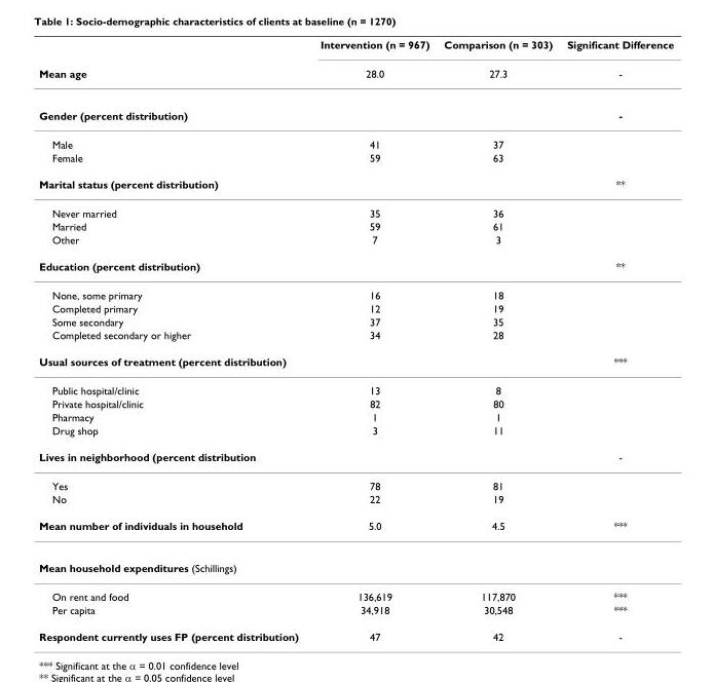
<table><thead><tr><td rowspan="2">Mean age</td><td rowspan="2">Intervention (n = 967) 28.0</td><td rowspan="2">Comparison (n = 303) 27.3</td><td rowspan="2">Significant Difference -</td></tr><tr></tr></thead><tbody><tr><td>Gender (percent distribution)</td><td></td><td></td><td>-</td></tr><tr><td>Male</td><td>41</td><td>37</td><td></td></tr><tr><td>Female</td><td>59</td><td>63</td><td></td></tr><tr><td>Marital status (percent distribution)</td><td></td><td></td><td>**</td></tr><tr><td>Never married</td><td>35</td><td>36</td><td></td></tr><tr><td>Married</td><td>59</td><td>61</td><td></td></tr><tr><td>Other</td><td>7</td><td>3</td><td></td></tr><tr><td>Education (percent distribution)</td><td></td><td></td><td>**</td></tr><tr><td>None, some primary</td><td>16</td><td>18</td><td></td></tr><tr><td>Completed primary</td><td>12</td><td>19</td><td></td></tr><tr><td>Some secondary</td><td>37</td><td>35</td><td></td></tr><tr><td>Completed secondary or higher</td><td>34</td><td>28</td><td></td></tr><tr><td>Usual sources of treatment (percent distribution)</td><td></td><td></td><td>***</td></tr><tr><td>Public hospital/clinic</td><td>13</td><td>8</td><td></td></tr><tr><td>Private hospital/clinic</td><td>82</td><td>80</td><td></td></tr><tr><td>Pharmacy</td><td>1</td><td>1</td><td></td></tr><tr><td>Drug shop</td><td>3</td><td>11</td><td></td></tr><tr><td>Lives in neighborhood (percent distribution</td><td></td><td></td><td>-</td></tr><tr><td>Yes</td><td>78</td><td>81</td><td></td></tr><tr><td>No</td><td>22</td><td>19</td><td></td></tr><tr><td>Mean number of individuals in household</td><td>5.0</td><td>4.5</td><td>***</td></tr><tr><td colspan="4">Mean household expenditures (Schillings)</td></tr><tr><td>On rent and food</td><td>136,619</td><td>117,870</td><td>***</td></tr><tr><td>Per capita</td><td>34,918</td><td>30,548</td><td>***</td></tr><tr><td>Respondent currently uses FP (percent distribution)</td><td>47</td><td>42</td><td>-</td></tr></tbody></table>